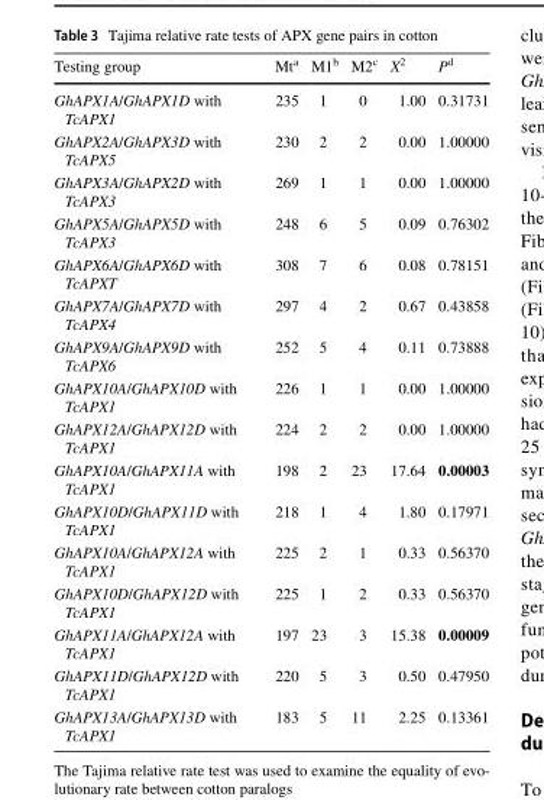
<table><thead><tr><td>Testing group</td><td>Mt<sup>a</sup></td><td>M1<sup>b</sup></td><td>M2<sup>c</sup></td><td>X<sup>2</sup></td><td>P<sup>d</sup></td></tr></thead><tbody><tr><td>GhAPX1A/GhAPX1D with TcAPX1</td><td>235</td><td>1</td><td>0</td><td>1.00</td><td>0.31731</td></tr><tr><td>GhAPX2A/GhAPX3D with TcAPX5</td><td>230</td><td>2</td><td>2</td><td>0.00</td><td>1.00000</td></tr><tr><td>GhAPX3A/GhAPX2D with TcAPX3</td><td>269</td><td>1</td><td>1</td><td>0.00</td><td>1.00000</td></tr><tr><td>GhAPX5A/GhAPX5D with TcAPX3</td><td>248</td><td>6</td><td>5</td><td>0.09</td><td>0.76302</td></tr><tr><td>GhAPX6A/GhAPX6D with TcAPXT</td><td>308</td><td>7</td><td>6</td><td>0.08</td><td>0.78151</td></tr><tr><td>GhAPX7A/GhAPX7D with TcAPX4</td><td>297</td><td>4</td><td>2</td><td>0.67</td><td>0.43858</td></tr><tr><td>GhAPX9A/GhAPX9D with TcAPX6</td><td>252</td><td>5</td><td>4</td><td>0.11</td><td>0.73888</td></tr><tr><td>GhAPX10A/GhAPX10D with TcAPX1</td><td>226</td><td>1</td><td>1</td><td>0.00</td><td>1.00000</td></tr><tr><td>GhAPX12A/GhAPX12D with TcAPX1</td><td>224</td><td>2</td><td>2</td><td>0.00</td><td>1.00000</td></tr><tr><td>GhAPX10A/GhAPX11A with TcAPX1</td><td>198</td><td>2</td><td>23</td><td>17.64</td><td>0.00003</td></tr><tr><td>GhAPX10D/GhAPX11D with TcAPX1</td><td>218</td><td>1</td><td>4</td><td>1.80</td><td>0.17971</td></tr><tr><td>GhAPX10A/GhAPX12A with TcAPX1</td><td>225</td><td>2</td><td>1</td><td>0.33</td><td>0.56370</td></tr><tr><td>GhAPX10D/GhAPX12D with TcAPX1</td><td>225</td><td>1</td><td>2</td><td>0.33</td><td>0.56370</td></tr><tr><td>GhAPX11A/GhAPX12A with TcAPX1</td><td>197</td><td>23</td><td>3</td><td>15.38</td><td>0.00009</td></tr><tr><td>GhAPX11D/GhAPX12D with TcAPX1</td><td>220</td><td>5</td><td>3</td><td>0.50</td><td>0.47950</td></tr><tr><td>GhAPX13A/GhAPX13D with TcAPX1</td><td>183</td><td>5</td><td>11</td><td>2.25</td><td>0.13361</td></tr></tbody></table>